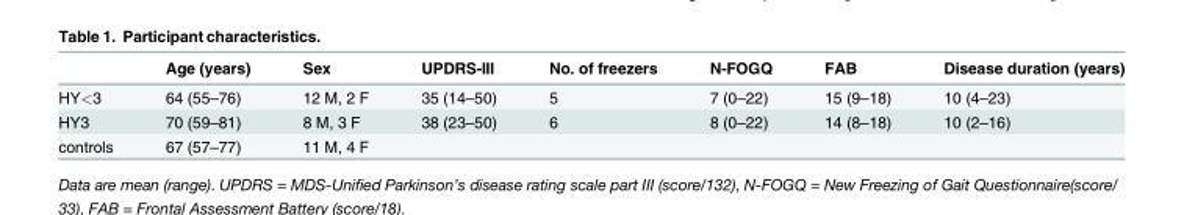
<table><thead><tr><td></td><td>Age (years)</td><td>Sex</td><td>UPDRS-III</td><td>No. of freezers</td><td>N-FOGQ</td><td>FAB</td><td>Disease duration (years)</td></tr></thead><tbody><tr><td>HY&lt;3</td><td>64 (55–76)</td><td>12 M, 2 F</td><td>35 (14–50)</td><td>5</td><td>7 (0–22)</td><td>15 (9–18)</td><td>10 (4–23)</td></tr><tr><td>HY3</td><td>70 (59–81)</td><td>8 M, 3 F</td><td>38 (23–50)</td><td>6</td><td>8 (0–22)</td><td>14 (8–18)</td><td>10 (2–16)</td></tr><tr><td>controls</td><td>67 (57–77)</td><td>11 M, 4 F</td><td></td><td></td><td></td><td></td><td></td></tr></tbody></table>